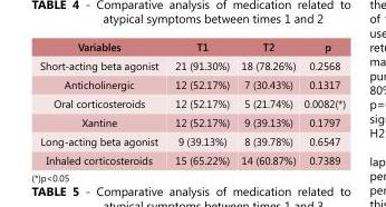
<table><thead><tr><td>Variables</td><td>T1</td><td>T2</td><td>p</td></tr></thead><tbody><tr><td>Short-acting beta agonist</td><td>21 (91.30%)</td><td>18 (78.26%)</td><td>0.2568</td></tr><tr><td>Anticholinergic</td><td>12 (52.17%)</td><td>7 (30.43%)</td><td>0.1317</td></tr><tr><td>Oral corticosteroids</td><td>12 (52.17%)</td><td>5 (21.74%)</td><td>0.0082(*)</td></tr><tr><td>Xantine</td><td>12 (52.17%)</td><td>9 (39.13%)</td><td>0.1797</td></tr><tr><td>Long-acting beta agonist</td><td>9 (39.13%)</td><td>8 (39.78%)</td><td>0.6547</td></tr><tr><td>Inhaled corticosteroids</td><td>15 (65.22%)</td><td>14 (60.87%)</td><td>0.7389</td></tr></tbody></table>